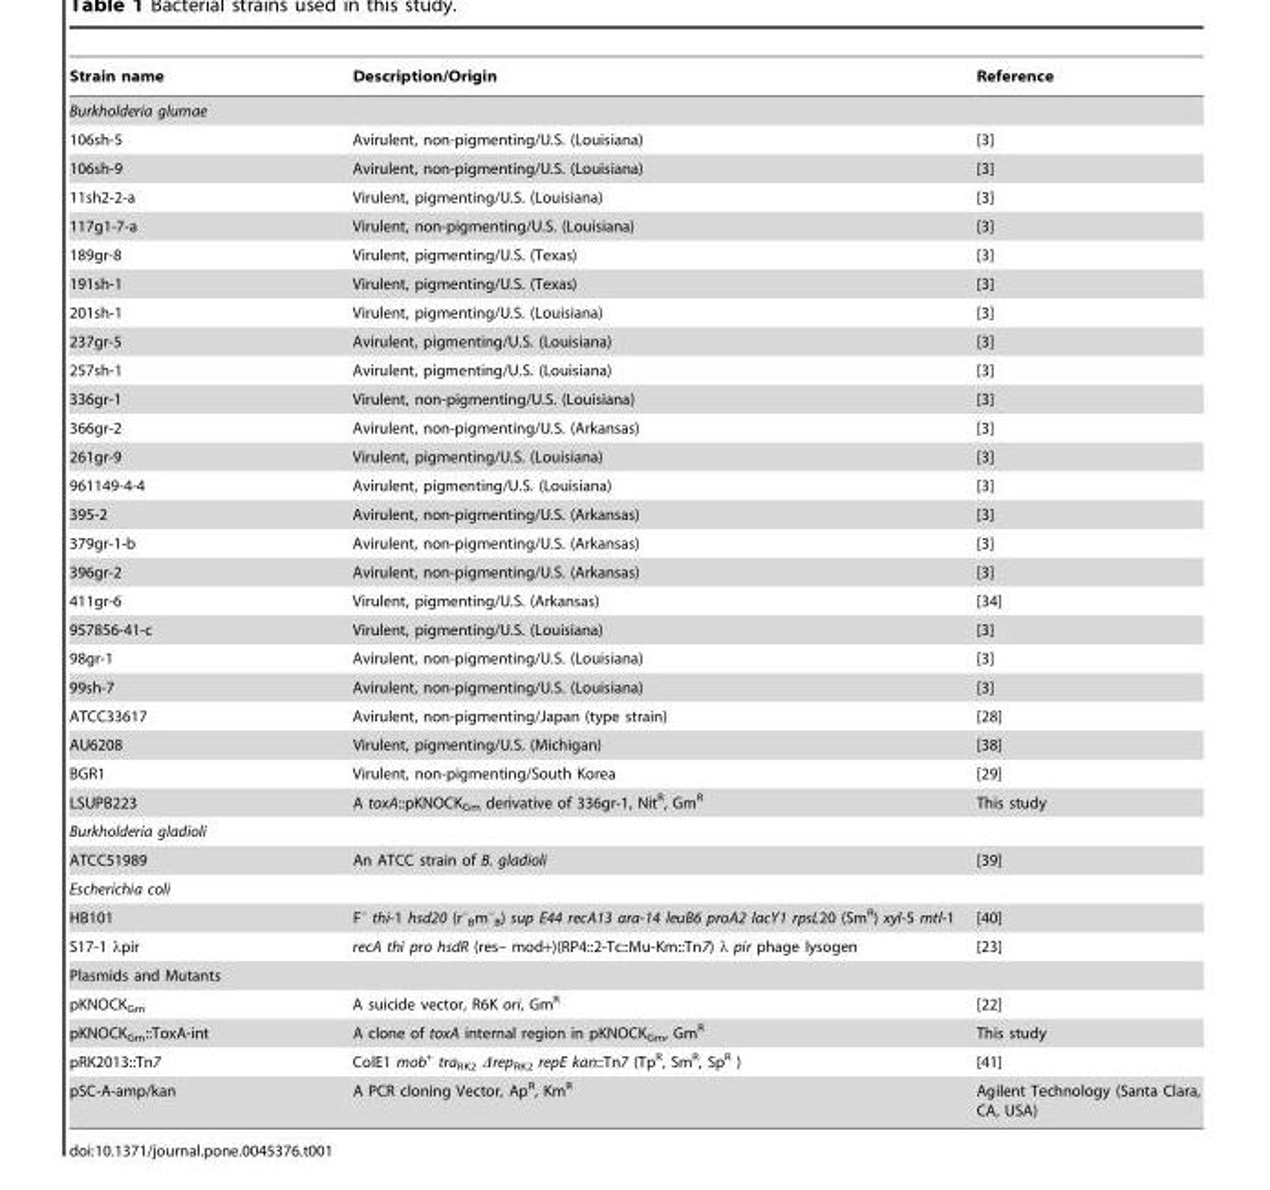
<table><thead><tr><td>Strain name</td><td>Description/Origin</td><td>Reference</td></tr></thead><tbody><tr><td colspan="3">Burkholderia glumae</td></tr><tr><td>106sh-5</td><td>Avirulent, non-pigmenting/U.S. (Louisiana)</td><td>[3]</td></tr><tr><td>106sh-9</td><td>Avirulent, non-pigmenting/U.S. (Louisiana)</td><td>[3]</td></tr><tr><td>11sh2-2-a</td><td>Virulent, pigmenting/U.S. (Louisiana)</td><td>[3]</td></tr><tr><td>117g1-7-a</td><td>Virulent, non-pigmenting/U.S. (Louisiana)</td><td>[3]</td></tr><tr><td>189gr-8</td><td>Virulent, pigmenting/U.S. (Texas)</td><td>[3]</td></tr><tr><td>191sh-1</td><td>Virulent, pigmenting/U.S. (Texas)</td><td>[3]</td></tr><tr><td>201sh-1</td><td>Virulent, pigmenting/U.S. (Louisiana)</td><td>[3]</td></tr><tr><td>237gr-5</td><td>Avirulent, pigmenting/U.S. (Louisiana)</td><td>[3]</td></tr><tr><td>257sh-1</td><td>Avirulent, pigmenting/U.S. (Louisiana)</td><td>[3]</td></tr><tr><td>336gr-1</td><td>Virulent, non-pigmenting/U.S. (Louisiana)</td><td>[3]</td></tr><tr><td>366gr-2</td><td>Avirulent, non-pigmenting/U.S. (Arkansas)</td><td>[3]</td></tr><tr><td>261gr-9</td><td>Virulent, pigmenting/U.S. (Louisiana)</td><td>[3]</td></tr><tr><td>961149-4-4</td><td>Avirulent, pigmenting/U.S. (Louisiana)</td><td>[3]</td></tr><tr><td>395-2</td><td>Avirulent, non-pigmenting/U.S. (Arkansas)</td><td>[3]</td></tr><tr><td>379gr-1-b</td><td>Avirulent, non-pigmenting/U.S. (Arkansas)</td><td>[3]</td></tr><tr><td>396gr-2</td><td>Avirulent, non-pigmenting/U.S. (Arkansas)</td><td>[3]</td></tr><tr><td>411gr-6</td><td>Virulent, pigmenting/U.S. (Arkansas)</td><td>[34]</td></tr><tr><td>957856-41-c</td><td>Virulent, pigmenting/U.S. (Louisiana)</td><td>[3]</td></tr><tr><td>98gr-1</td><td>Avirulent, non-pigmenting/U.S. (Louisiana)</td><td>[3]</td></tr><tr><td>99sh-7</td><td>Avirulent, non-pigmenting/U.S. (Louisiana)</td><td>[3]</td></tr><tr><td>ATCC33617</td><td>Avirulent, non-pigmenting/Japan (type strain)</td><td>[28]</td></tr><tr><td>AU6208</td><td>Virulent, pigmenting/U.S. (Michigan)</td><td>[38]</td></tr><tr><td>BGR1</td><td>Virulent, non-pigmenting/South Korea</td><td>[29]</td></tr><tr><td>LSUPB223</td><td>A toxA::pKNOCK<sub>Gm</sub> derivative of 336gr-1, Nit<sup>R</sup>, Gm<sup>R</sup></td><td>This study</td></tr><tr><td colspan="3">Burkholderia gladioli</td></tr><tr><td>ATCC51989</td><td>An ATCC strain of B. gladioli</td><td>[39]</td></tr><tr><td colspan="3">Escherichia coli</td></tr><tr><td>HB101</td><td>F<sup>–</sup> thi-1 hsd20 (r<sup>–</sup> <sub>B</sub>m<sup>–</sup> <sub>B</sub>) sup E44 recA13 ara-14 leuB6 proA2 lacY1 rpsL20 (Sm<sup>R</sup>) xyl-5 mtl-1</td><td>[40]</td></tr><tr><td>S17-1 λpir</td><td>recA thi pro hsdR (res– mod+)(RP4::2-Tc::Mu-Km::Tn7) λ pir phage lysogen</td><td>[23]</td></tr><tr><td colspan="3">Plasmids and Mutants</td></tr><tr><td>pKNOCK<sub>Gm</sub></td><td>A suicide vector, R6K ori, Gm<sup>R</sup></td><td>[22]</td></tr><tr><td>pKNOCK<sub>Gm</sub>::ToxA-int</td><td>A clone of toxA internal region in pKNOCK<sub>Gm</sub>, Gm<sup>R</sup></td><td>This study</td></tr><tr><td>pRK2013::Tn7</td><td>ColE1 mob<sup>+</sup> tra<sub>RK2</sub> Δrep<sub>RK2</sub> repE kan::Tn7 (Tp<sup>R</sup>, Sm<sup>R</sup>, Sp<sup>R</sup> )</td><td>[41]</td></tr><tr><td>pSC-A-amp/kan</td><td>A PCR cloning Vector, Ap<sup>R</sup>, Km<sup>R</sup></td><td>Agilent Technology (Santa Clara, CA, USA)</td></tr></tbody></table>